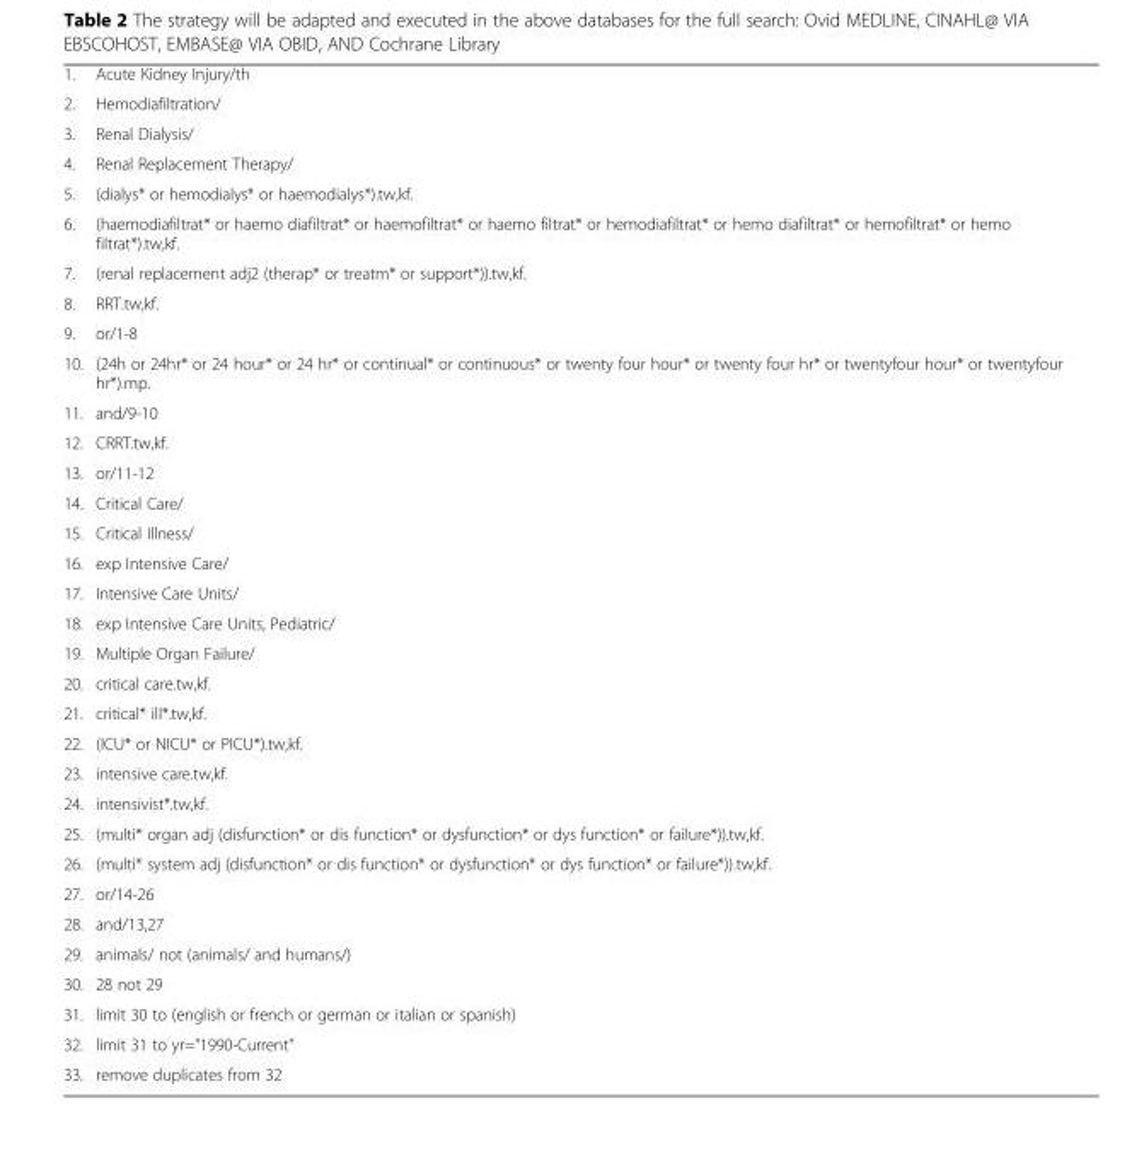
<table><tbody><tr><td>1.</td><td>Acute Kidney Injury/th</td></tr><tr><td>2.</td><td>Hemodiafiltration/</td></tr><tr><td>3.</td><td>Renal Dialysis/</td></tr><tr><td>4.</td><td>Renal Replacement Therapy/</td></tr><tr><td>5.</td><td>(dialys* or hemodialys* or haemodialys*).tw,kf.</td></tr><tr><td>6.</td><td>(haemodiafiltrat* or haemo diafiltrat* or haemofiltrat* or haemo filtrat* or hemodiafiltrat* or hemo diafiltrat* or hemofiltrat* or hemo filtrat*).tw,kf.</td></tr><tr><td>7.</td><td>(renal replacement adj2 (therap* or treatm* or support*)).tw,kf.</td></tr><tr><td>8.</td><td>RRT.tw,kf.</td></tr><tr><td>9.</td><td>or/1-8</td></tr><tr><td>10.</td><td>(24h or 24hr* or 24 hour* or 24 hr* or continual* or continuous* or twenty four hour* or twenty four hr* or twentyfour hour* or twentyfour hr*).mp.</td></tr><tr><td>11.</td><td>and/9-10</td></tr><tr><td>12.</td><td>CRRT.tw,kf.</td></tr><tr><td>13.</td><td>or/11-12</td></tr><tr><td>14.</td><td>Critical Care/</td></tr><tr><td>15.</td><td>Critical Illness/</td></tr><tr><td>16.</td><td>exp Intensive Care/</td></tr><tr><td>17.</td><td>Intensive Care Units/</td></tr><tr><td>18.</td><td>exp Intensive Care Units, Pediatric/</td></tr><tr><td>19.</td><td>Multiple Organ Failure/</td></tr><tr><td>20.</td><td>critical care.tw,kf.</td></tr><tr><td>21.</td><td>critical* ill*.tw,kf.</td></tr><tr><td>22.</td><td>(ICU* or NICU* or PICU*).tw,kf.</td></tr><tr><td>23.</td><td>intensive care.tw,kf.</td></tr><tr><td>24.</td><td>intensivist*.tw,kf.</td></tr><tr><td>25.</td><td>(multi* organ adj (disfunction* or dis function* or dysfunction* or dys function* or failure*)).tw,kf.</td></tr><tr><td>26.</td><td>(multi* system adj (disfunction* or dis function* or dysfunction* or dys function* or failure*)).tw,kf.</td></tr><tr><td>27.</td><td>or/14-26</td></tr><tr><td>28.</td><td>and/13,27</td></tr><tr><td>29.</td><td>animals/ not (animals/ and humans/)</td></tr><tr><td>30.</td><td>28 not 29</td></tr><tr><td>31.</td><td>limit 30 to (english or french or german or italian or spanish)</td></tr><tr><td>32.</td><td>limit 31 to yr=&quot;1990-Current&quot;</td></tr><tr><td>33.</td><td>remove duplicates from 32</td></tr></tbody></table>